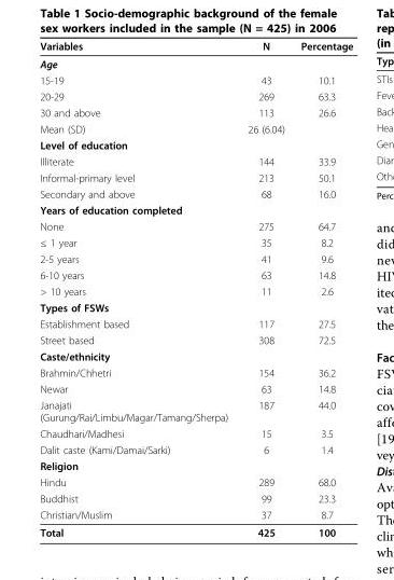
<table><thead><tr><td>Variables</td><td>N</td><td>Percentage</td></tr></thead><tbody><tr><td colspan="3">Age</td></tr><tr><td>15-19</td><td>43</td><td>10.1</td></tr><tr><td>20-29</td><td>269</td><td>63.3</td></tr><tr><td>30 and above</td><td>113</td><td>26.6</td></tr><tr><td>Mean (SD)</td><td>26 (6.04)</td><td></td></tr><tr><td colspan="3">Level of education</td></tr><tr><td>Illiterate</td><td>144</td><td>33.9</td></tr><tr><td>Informal-primary level</td><td>213</td><td>50.1</td></tr><tr><td>Secondary and above</td><td>68</td><td>16.0</td></tr><tr><td colspan="3">Years of education completed</td></tr><tr><td>None</td><td>275</td><td>64.7</td></tr><tr><td>≤ 1 year</td><td>35</td><td>8.2</td></tr><tr><td>2-5 years</td><td>41</td><td>9.6</td></tr><tr><td>6-10 years</td><td>63</td><td>14.8</td></tr><tr><td>&gt; 10 years</td><td>11</td><td>2.6</td></tr><tr><td colspan="3">Types of FSWs</td></tr><tr><td>Establishment based</td><td>117</td><td>27.5</td></tr><tr><td>Street based</td><td>308</td><td>72.5</td></tr><tr><td colspan="3">Caste/ethnicity</td></tr><tr><td>Brahmin/Chhetri</td><td>154</td><td>36.2</td></tr><tr><td>Newar</td><td>63</td><td>14.8</td></tr><tr><td>Janajati (Gurung/Rai/Limbu/Magar/Tamang/Sherpa)</td><td>187</td><td>44.0</td></tr><tr><td>Chaudhari/Madhesi</td><td>15</td><td>3.5</td></tr><tr><td>Dalit caste (Kami/Damai/Sarki)</td><td>6</td><td>1.4</td></tr><tr><td colspan="3">Religion</td></tr><tr><td>Hindu</td><td>289</td><td>68.0</td></tr><tr><td>Buddhist</td><td>99</td><td>23.3</td></tr><tr><td>Christian/Muslim</td><td>37</td><td>8.7</td></tr><tr><td>Total</td><td>425</td><td>100</td></tr></tbody></table>